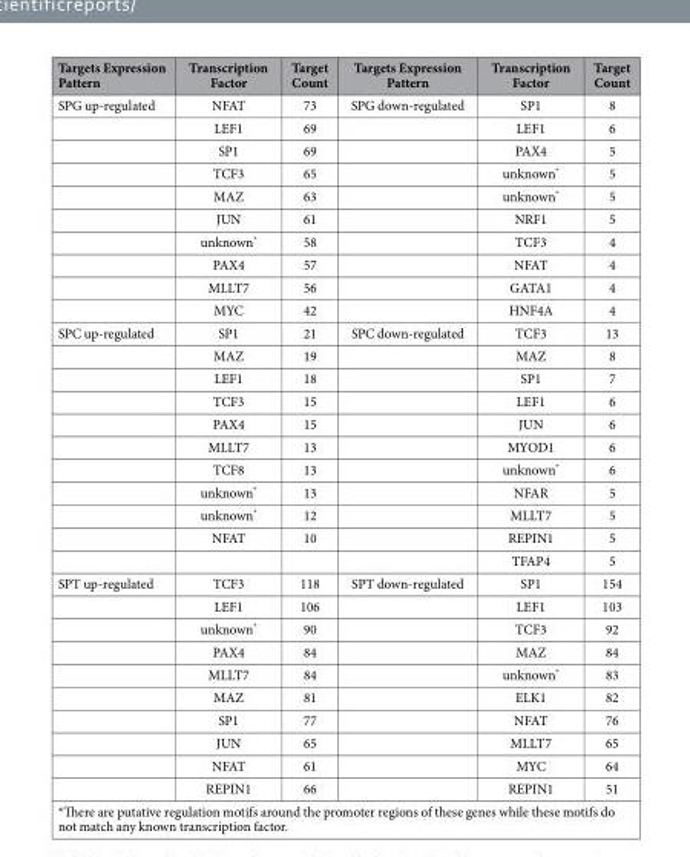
<table><thead><tr><td>Targets Expression Pattern</td><td>Transcription Factor</td><td>Target Count</td><td>Targets Expression Pattern</td><td>Transcription Factor</td><td>Target Count</td></tr></thead><tbody><tr><td rowspan="10">SPG up-regulated</td><td>NFAT</td><td>73</td><td>SPG down-regulated</td><td>SP1</td><td>8</td></tr><tr><td>LEF1</td><td>69</td><td></td><td>LEF1</td><td>6</td></tr><tr><td>SP1</td><td>69</td><td></td><td>PAX4</td><td>5</td></tr><tr><td>TCF3</td><td>65</td><td></td><td>unknown*</td><td>5</td></tr><tr><td>MAZ</td><td>63</td><td></td><td>unknown*</td><td>5</td></tr><tr><td>JUN</td><td>61</td><td></td><td>NRF1</td><td>5</td></tr><tr><td>unknown*</td><td>58</td><td></td><td>TCF3</td><td>4</td></tr><tr><td>PAX4</td><td>57</td><td></td><td>NFAT</td><td>4</td></tr><tr><td>MLLT7</td><td>56</td><td></td><td>GATA1</td><td>4</td></tr><tr><td>MYC</td><td>42</td><td></td><td>HNF4A</td><td>4</td></tr><tr><td rowspan="11">SPC up-regulated</td><td>SP1</td><td>21</td><td>SPC down-regulated</td><td>TCF3</td><td>13</td></tr><tr><td>MAZ</td><td>19</td><td></td><td>MAZ</td><td>8</td></tr><tr><td>LEF1</td><td>18</td><td></td><td>SP1</td><td>7</td></tr><tr><td>TCF3</td><td>15</td><td></td><td>LEF1</td><td>6</td></tr><tr><td>PAX4</td><td>15</td><td></td><td>JUN</td><td>6</td></tr><tr><td>MLLT7</td><td>13</td><td></td><td>MYOD1</td><td>6</td></tr><tr><td>TCF8</td><td>13</td><td></td><td>unknown*</td><td>6</td></tr><tr><td>unknown*</td><td>13</td><td></td><td>NFAR</td><td>5</td></tr><tr><td>unknown*</td><td>12</td><td></td><td>MLLT7</td><td>5</td></tr><tr><td>NFAT</td><td>10</td><td></td><td>REPIN1</td><td>5</td></tr><tr><td></td><td></td><td></td><td>TFAP4</td><td>5</td></tr><tr><td rowspan="10">SPT up-regulated</td><td>TCF3</td><td>118</td><td>SPT down-regulated</td><td>SP1</td><td>154</td></tr><tr><td>LEF1</td><td>106</td><td></td><td>LEF1</td><td>103</td></tr><tr><td>unknown*</td><td>90</td><td></td><td>TCF3</td><td>92</td></tr><tr><td>PAX4</td><td>84</td><td></td><td>MAZ</td><td>84</td></tr><tr><td>MLLT7</td><td>84</td><td></td><td>unknown*</td><td>83</td></tr><tr><td>MAZ</td><td>81</td><td></td><td>ELK1</td><td>82</td></tr><tr><td>SP1</td><td>77</td><td></td><td>NFAT</td><td>76</td></tr><tr><td>JUN</td><td>65</td><td></td><td>MLLT7</td><td>65</td></tr><tr><td>NFAT</td><td>61</td><td></td><td>MYC</td><td>64</td></tr><tr><td>REPIN1</td><td>66</td><td></td><td>REPIN1</td><td>51</td></tr></tbody></table>